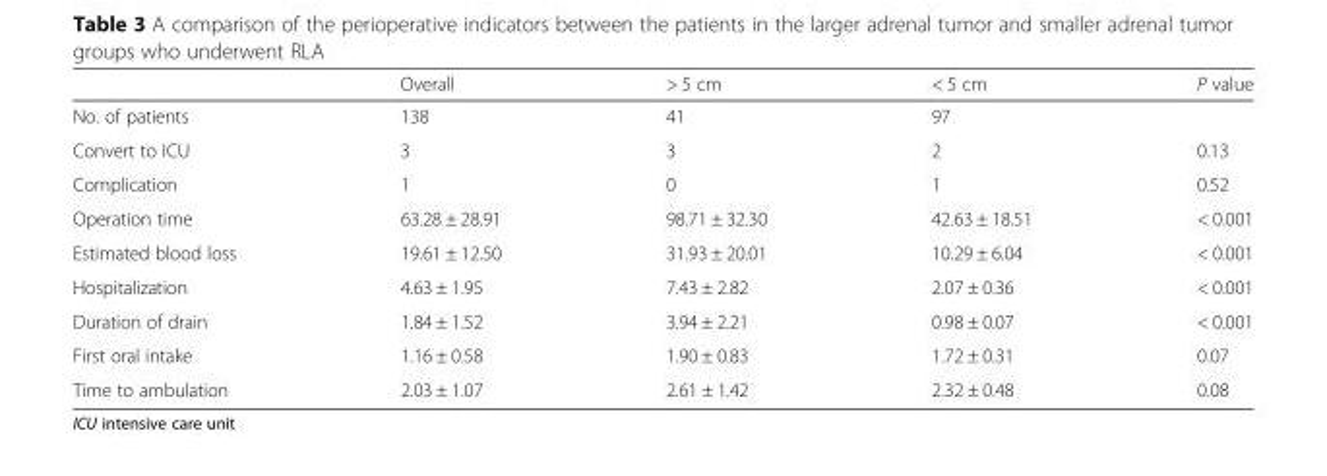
<table><thead><tr><td></td><td>Overall</td><td>&gt; 5 cm</td><td>&lt; 5 cm</td><td>P value</td></tr></thead><tbody><tr><td>No. of patients</td><td>138</td><td>41</td><td>97</td><td></td></tr><tr><td>Convert to ICU</td><td>3</td><td>3</td><td>2</td><td>0.13</td></tr><tr><td>Complication</td><td>1</td><td>0</td><td>1</td><td>0.52</td></tr><tr><td>Operation time</td><td>63.28 ± 28.91</td><td>98.71 ± 32.30</td><td>42.63 ± 18.51</td><td>&lt; 0.001</td></tr><tr><td>Estimated blood loss</td><td>19.61 ± 12.50</td><td>31.93 ± 20.01</td><td>10.29 ± 6.04</td><td>&lt; 0.001</td></tr><tr><td>Hospitalization</td><td>4.63 ± 1.95</td><td>7.43 ± 2.82</td><td>2.07 ± 0.36</td><td>&lt; 0.001</td></tr><tr><td>Duration of drain</td><td>1.84 ± 1.52</td><td>3.94 ± 2.21</td><td>0.98 ± 0.07</td><td>&lt; 0.001</td></tr><tr><td>First oral intake</td><td>1.16 ± 0.58</td><td>1.90 ± 0.83</td><td>1.72 ± 0.31</td><td>0.07</td></tr><tr><td>Time to ambulation</td><td>2.03 ± 1.07</td><td>2.61 ± 1.42</td><td>2.32 ± 0.48</td><td>0.08</td></tr></tbody></table>